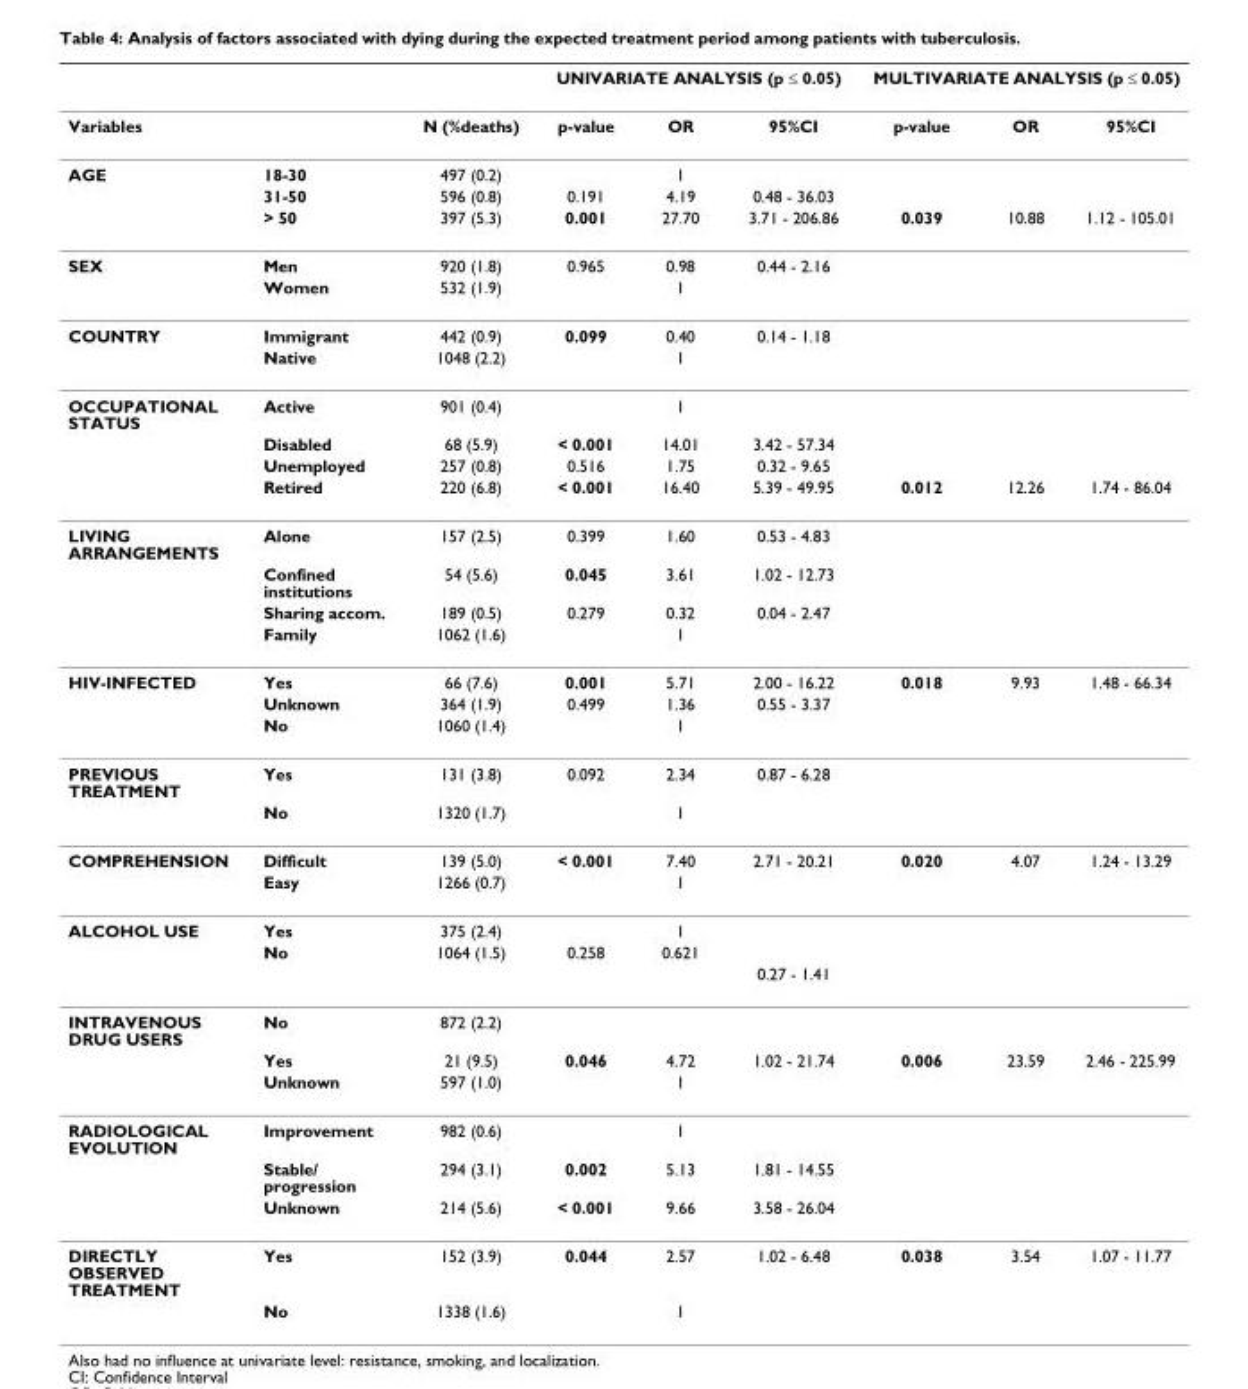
<table><thead><tr><td rowspan="2">Variables</td><td rowspan="2"></td><td rowspan="2">N (%deaths)</td><td colspan="3">UNIVARIATE ANALYSIS (p ≤ 0.05)</td><td colspan="3">MULTIVARIATE ANALYSIS (p ≤ 0.05)</td></tr><tr><td>p-value</td><td>OR</td><td>95%CI</td><td>p-value</td><td>OR</td><td>95%CI</td></tr></thead><tbody><tr><td rowspan="3">AGE</td><td>18-30</td><td>497 (0.2)</td><td></td><td>1</td><td></td><td></td><td></td><td></td></tr><tr><td>31-50</td><td>596 (0.8)</td><td>0.191</td><td>4.19</td><td>0.48 - 36.03</td><td></td><td></td><td></td></tr><tr><td>&gt; 50</td><td>397 (5.3)</td><td>0.001</td><td>27.70</td><td>3.71 - 206.86</td><td>0.039</td><td>10.88</td><td>1.12 - 105.01</td></tr><tr><td rowspan="2">SEX</td><td>Men</td><td>920 (1.8)</td><td>0.965</td><td>0.98</td><td>0.44 - 2.16</td><td></td><td></td><td></td></tr><tr><td>Women</td><td>532 (1.9)</td><td></td><td>1</td><td></td><td></td><td></td><td></td></tr><tr><td rowspan="2">COUNTRY</td><td>Immigrant</td><td>442 (0.9)</td><td>0.099</td><td>0.40</td><td>0.14 - 1.18</td><td></td><td></td><td></td></tr><tr><td>Native</td><td>1048 (2.2)</td><td></td><td>1</td><td></td><td></td><td></td><td></td></tr><tr><td rowspan="4">OCCUPATIONAL STATUS</td><td>Active</td><td>901 (0.4)</td><td></td><td>1</td><td></td><td></td><td></td><td></td></tr><tr><td>Disabled</td><td>68 (5.9)</td><td>&lt; 0.001</td><td>14.01</td><td>3.42 - 57.34</td><td></td><td></td><td></td></tr><tr><td>Unemployed</td><td>257 (0.8)</td><td>0.516</td><td>1.75</td><td>0.32 - 9.65</td><td></td><td></td><td></td></tr><tr><td>Retired</td><td>220 (6.8)</td><td>&lt; 0.001</td><td>16.40</td><td>5.39 - 49.95</td><td>0.012</td><td>12.26</td><td>1.74 - 86.04</td></tr><tr><td rowspan="4">LIVING ARRANGEMENTS</td><td>Alone</td><td>157 (2.5)</td><td>0.399</td><td>1.60</td><td>0.53 - 4.83</td><td></td><td></td><td></td></tr><tr><td>Confined institutions</td><td>54 (5.6)</td><td>0.045</td><td>3.61</td><td>1.02 - 12.73</td><td></td><td></td><td></td></tr><tr><td>Sharing accom.</td><td>189 (0.5)</td><td>0.279</td><td>0.32</td><td>0.04 - 2.47</td><td></td><td></td><td></td></tr><tr><td>Family</td><td>1062 (1.6)</td><td></td><td>1</td><td></td><td></td><td></td><td></td></tr><tr><td rowspan="3">HIV-INFECTED</td><td>Yes</td><td>66 (7.6)</td><td>0.001</td><td>5.71</td><td>2.00 - 16.22</td><td>0.018</td><td>9.93</td><td>1.48 - 66.34</td></tr><tr><td>Unknown</td><td>364 (1.9)</td><td>0.499</td><td>1.36</td><td>0.55 - 3.37</td><td></td><td></td><td></td></tr><tr><td>No</td><td>1060 (1.4)</td><td></td><td>1</td><td></td><td></td><td></td><td></td></tr><tr><td rowspan="2">PREVIOUS TREATMENT</td><td>Yes</td><td>131 (3.8)</td><td>0.092</td><td>2.34</td><td>0.87 - 6.28</td><td></td><td></td><td></td></tr><tr><td>No</td><td>1320 (1.7)</td><td></td><td>1</td><td></td><td></td><td></td><td></td></tr><tr><td rowspan="2">COMPREHENSION</td><td>Difficult</td><td>139 (5.0)</td><td>&lt; 0.001</td><td>7.40</td><td>2.71 - 20.21</td><td>0.020</td><td>4.07</td><td>1.24 - 13.29</td></tr><tr><td>Easy</td><td>1266 (0.7)</td><td></td><td>1</td><td></td><td></td><td></td><td></td></tr><tr><td rowspan="3">ALCOHOL USE</td><td>Yes</td><td>375 (2.4)</td><td></td><td>1</td><td></td><td></td><td></td><td></td></tr><tr><td>No</td><td>1064 (1.5)</td><td>0.258</td><td>0.621</td><td></td><td></td><td></td><td></td></tr><tr><td></td><td></td><td></td><td></td><td>0.27 - 1.41</td><td></td><td></td><td></td></tr><tr><td rowspan="3">INTRAVENOUS DRUG USERS</td><td>No</td><td>872 (2.2)</td><td></td><td></td><td></td><td></td><td></td><td></td></tr><tr><td>Yes</td><td>21 (9.5)</td><td>0.046</td><td>4.72</td><td>1.02 - 21.74</td><td>0.006</td><td>23.59</td><td>2.46 - 225.99</td></tr><tr><td>Unknown</td><td>597 (1.0)</td><td></td><td>1</td><td></td><td></td><td></td><td></td></tr><tr><td rowspan="3">RADIOLOGICAL EVOLUTION</td><td>Improvement</td><td>982 (0.6)</td><td></td><td>1</td><td></td><td></td><td></td><td></td></tr><tr><td>Stable/ progression</td><td>294 (3.1)</td><td>0.002</td><td>5.13</td><td>1.81 - 14.55</td><td></td><td></td><td></td></tr><tr><td>Unknown</td><td>214 (5.6)</td><td>&lt; 0.001</td><td>9.66</td><td>3.58 - 26.04</td><td></td><td></td><td></td></tr><tr><td rowspan="2">DIRECTLY OBSERVED TREATMENT</td><td>Yes</td><td>152 (3.9)</td><td>0.044</td><td>2.57</td><td>1.02 - 6.48</td><td>0.038</td><td>3.54</td><td>1.07 - 11.77</td></tr><tr><td>No</td><td>1338 (1.6)</td><td></td><td>1</td><td></td><td></td><td></td><td></td></tr></tbody></table>